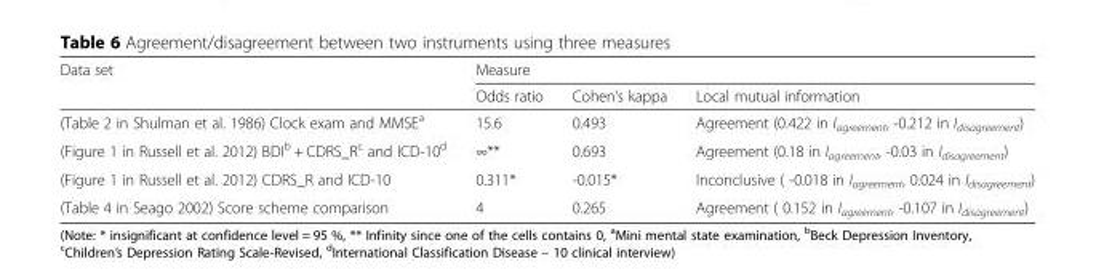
<table><thead><tr><td rowspan="2">Data set</td><td colspan="3">Measure</td></tr><tr><td>Odds ratio</td><td>Cohen’s kappa</td><td>Local mutual information</td></tr></thead><tbody><tr><td>(Table 2 in Shulman et al. 1986) Clock exam and MMSE<sup>a</sup></td><td>15.6</td><td>0.493</td><td>Agreement (0.422 in I<sub>agreement</sub>, -0.212 in I<sub>disagreement</sub>)</td></tr><tr><td>(Figure 1 in Russell et al. 2012) BDI<sup>b</sup> + CDRS_R<sup>c</sup> and ICD-10<sup>d</sup></td><td>∞**</td><td>0.693</td><td>Agreement (0.18 in I<sub>agreement</sub>, -0.03 in I<sub>disagreement</sub>)</td></tr><tr><td>(Figure 1 in Russell et al. 2012) CDRS_R and ICD-10</td><td>0.311*</td><td>-0.015*</td><td>Inconclusive ( -0.018 in I<sub>agreement</sub>, 0.024 in I<sub>disagreement</sub>)</td></tr><tr><td>(Table 4 in Seago 2002) Score scheme comparison</td><td>4</td><td>0.265</td><td>Agreement ( 0.152 in I<sub>agreement</sub>, -0.107 in I<sub>disagreement</sub>)</td></tr></tbody></table>